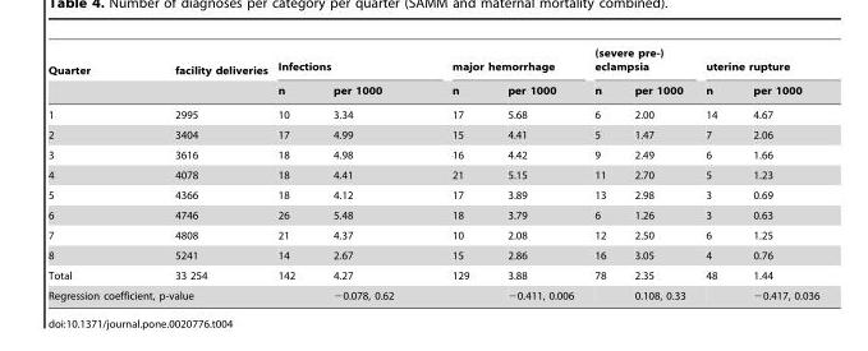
<table><thead><tr><td rowspan="2">Quarter</td><td rowspan="2">facility deliveries</td><td colspan="2">Infections</td><td colspan="2">major hemorrhage</td><td colspan="2">(severe pre-) eclampsia</td><td colspan="2">uterine rupture</td></tr><tr><td>n</td><td>per 1000</td><td>n</td><td>per 1000</td><td>n</td><td>per 1000</td><td>n</td><td>per 1000</td></tr></thead><tbody><tr><td>1</td><td>2995</td><td>10</td><td>3.34</td><td>17</td><td>5.68</td><td>6</td><td>2.00</td><td>14</td><td>4.67</td></tr><tr><td>2</td><td>3404</td><td>17</td><td>4.99</td><td>15</td><td>4.41</td><td>5</td><td>1.47</td><td>7</td><td>2.06</td></tr><tr><td>3</td><td>3616</td><td>18</td><td>4.98</td><td>16</td><td>4.42</td><td>9</td><td>2.49</td><td>6</td><td>1.66</td></tr><tr><td>4</td><td>4078</td><td>18</td><td>4.41</td><td>21</td><td>5.15</td><td>11</td><td>2.70</td><td>5</td><td>1.23</td></tr><tr><td>5</td><td>4366</td><td>18</td><td>4.12</td><td>17</td><td>3.89</td><td>13</td><td>2.98</td><td>3</td><td>0.69</td></tr><tr><td>6</td><td>4746</td><td>26</td><td>5.48</td><td>18</td><td>3.79</td><td>6</td><td>1.26</td><td>3</td><td>0.63</td></tr><tr><td>7</td><td>4808</td><td>21</td><td>4.37</td><td>10</td><td>2.08</td><td>12</td><td>2.50</td><td>6</td><td>1.25</td></tr><tr><td>8</td><td>5241</td><td>14</td><td>2.67</td><td>15</td><td>2.86</td><td>16</td><td>3.05</td><td>4</td><td>0.76</td></tr><tr><td>Total</td><td>33 254</td><td>142</td><td>4.27</td><td>129</td><td>3.88</td><td>78</td><td>2.35</td><td>48</td><td>1.44</td></tr><tr><td colspan="3">Regression coefficient, p-value</td><td>−0.078, 0.62</td><td></td><td>−0.411, 0.006</td><td></td><td>0.108, 0.33</td><td></td><td>−0.417, 0.036</td></tr></tbody></table>